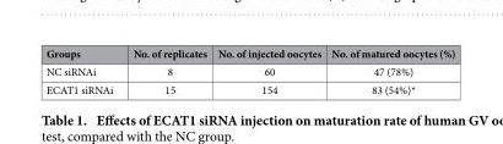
<table><thead><tr><td>Groups</td><td>No. of replicates</td><td>No. of injected oocytes</td><td>No. of matured oocytes (%)</td></tr></thead><tbody><tr><td>NC siRNAi</td><td>8</td><td>60</td><td>47 (78%)</td></tr><tr><td>ECAT1 siRNAi</td><td>15</td><td>154</td><td>83 (54%)*</td></tr></tbody></table>